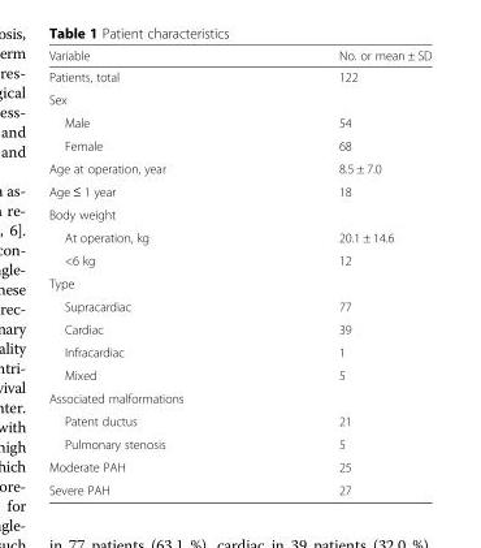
<table><thead><tr><td>Variable</td><td>No. or mean ± SD</td></tr></thead><tbody><tr><td>Patients, total</td><td>122</td></tr><tr><td colspan="2">Sex</td></tr><tr><td>Male</td><td>54</td></tr><tr><td>Female</td><td>68</td></tr><tr><td>Age at operation, year</td><td>8.5 ± 7.0</td></tr><tr><td>Age ≤ 1 year</td><td>18</td></tr><tr><td colspan="2">Body weight</td></tr><tr><td>At operation, kg</td><td>20.1 ± 14.6</td></tr><tr><td>&lt;6 kg</td><td>12</td></tr><tr><td colspan="2">Type</td></tr><tr><td>Supracardiac</td><td>77</td></tr><tr><td>Cardiac</td><td>39</td></tr><tr><td>Infracardiac</td><td>1</td></tr><tr><td>Mixed</td><td>5</td></tr><tr><td colspan="2">Associated malformations</td></tr><tr><td>Patent ductus</td><td>21</td></tr><tr><td>Pulmonary stenosis</td><td>5</td></tr><tr><td>Moderate PAH</td><td>25</td></tr><tr><td>Severe PAH</td><td>27</td></tr></tbody></table>